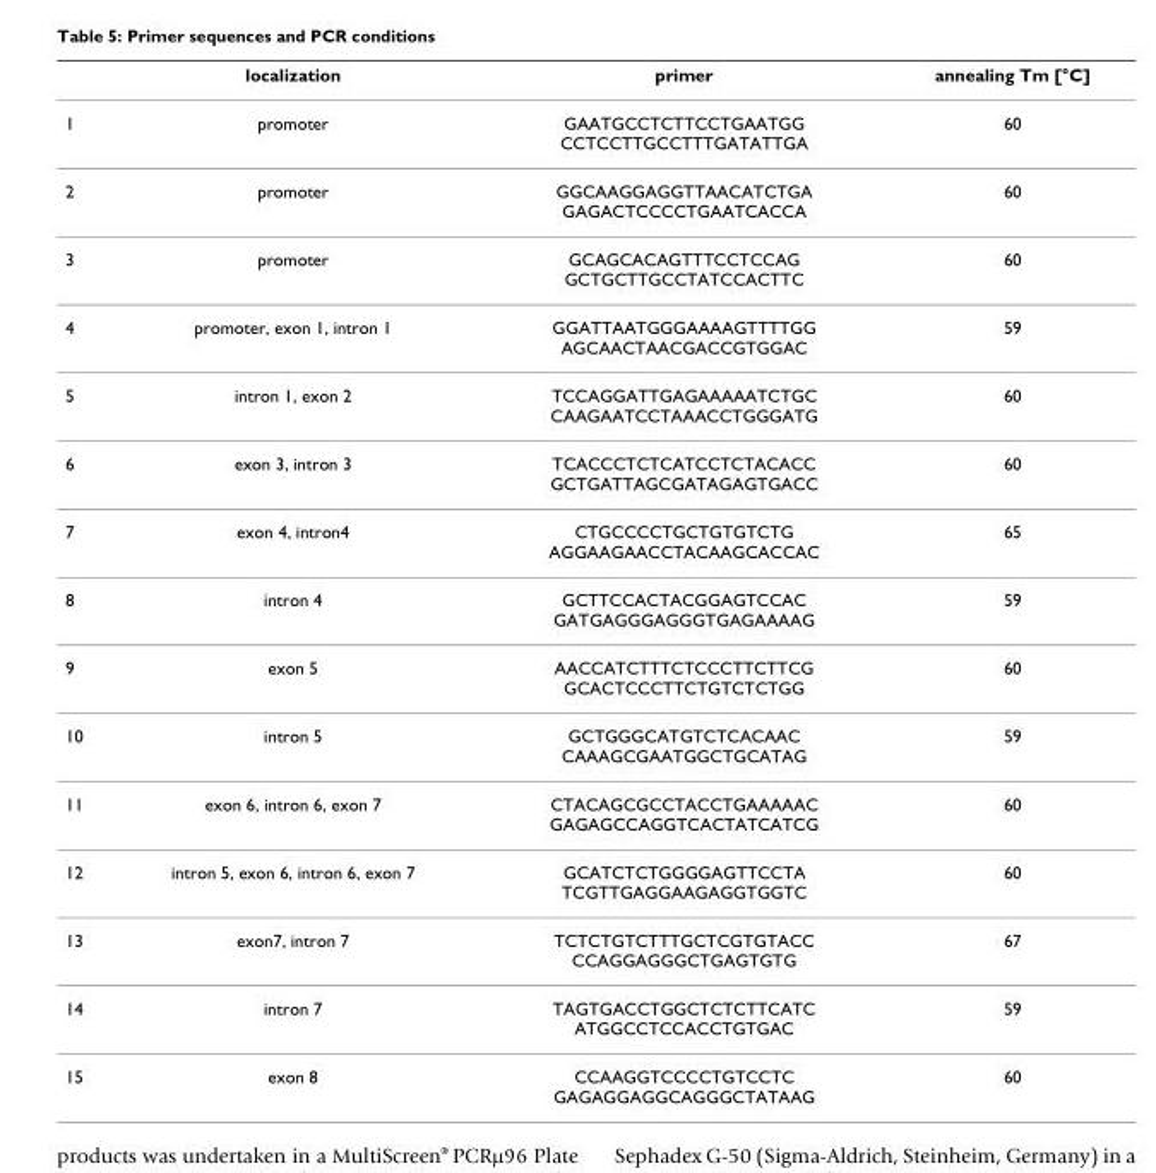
<table><thead><tr><td></td><td>localization</td><td>primer</td><td>annealing Tm [°C]</td></tr></thead><tbody><tr><td>1</td><td>promoter</td><td>GAATGCCTCTTCCTGAATGG CCTCCTTGCCTTTGATATTGA</td><td>60</td></tr><tr><td>2</td><td>promoter</td><td>GGCAAGGAGGTTAACATCTGA GAGACTCCCCTGAATCACCA</td><td>60</td></tr><tr><td>3</td><td>promoter</td><td>GCAGCACAGTTTCCTCCAG GCTGCTTGCCTATCCACTTC</td><td>60</td></tr><tr><td>4</td><td>promoter, exon 1, intron 1</td><td>GGATTAATGGGAAAAGTTTTGG AGCAACTAACGACCGTGGAC</td><td>59</td></tr><tr><td>5</td><td>intron 1, exon 2</td><td>TCCAGGATTGAGAAAAATCTGC CAAGAATCCTAAACCTGGGATG</td><td>60</td></tr><tr><td>6</td><td>exon 3, intron 3</td><td>TCACCCTCTCATCCTCTACACC GCTGATTAGCGATAGAGTGACC</td><td>60</td></tr><tr><td>7</td><td>exon 4, intron4</td><td>CTGCCCCTGCTGTGTCTG AGGAAGAACCTACAAGCACCAC</td><td>65</td></tr><tr><td>8</td><td>intron 4</td><td>GCTTCCACTACGGAGTCCAC GATGAGGGAGGGTGAGAAAAG</td><td>59</td></tr><tr><td>9</td><td>exon 5</td><td>AACCATCTTTCTCCCTTCTTCG GCACTCCCTTCTGTCTCTGG</td><td>60</td></tr><tr><td>10</td><td>intron 5</td><td>GCTGGGCATGTCTCACAAC CAAAGCGAATGGCTGCATAG</td><td>59</td></tr><tr><td>11</td><td>exon 6, intron 6, exon 7</td><td>CTACAGCGCCTACCTGAAAAAC GAGAGCCAGGTCACTATCATCG</td><td>60</td></tr><tr><td>12</td><td>intron 5, exon 6, intron 6, exon 7</td><td>GCATCTCTGGGGAGTTCCTA TCGTTGAGGAAGAGGTGGTC</td><td>60</td></tr><tr><td>13</td><td>exon7, intron 7</td><td>TCTCTGTCTTTGCTCGTGTACC CCAGGAGGGCTGAGTGTG</td><td>67</td></tr><tr><td>14</td><td>intron 7</td><td>TAGTGACCTGGCTCTCTTCATC ATGGCCTCCACCTGTGAC</td><td>59</td></tr><tr><td>15</td><td>exon 8</td><td>CCAAGGTCCCCTGTCCTC GAGAGGAGGCAGGGCTATAAG</td><td>60</td></tr></tbody></table>